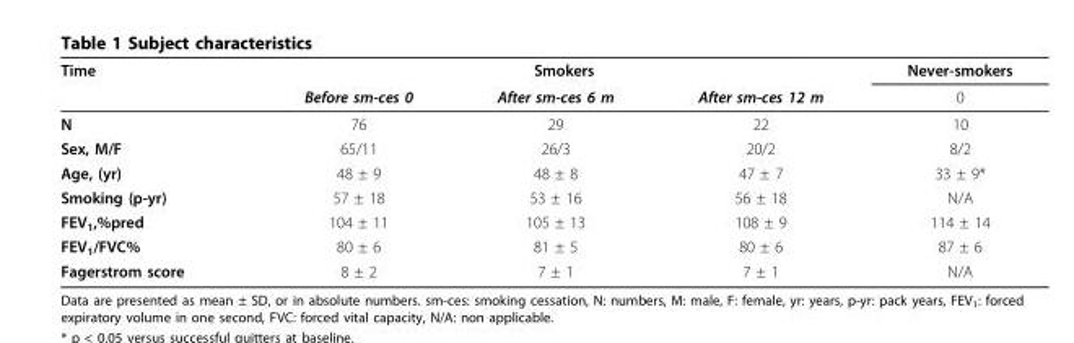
<table><thead><tr><td rowspan="2">Time</td><td colspan="3">Smokers</td><td rowspan="2">Never-smokers 0</td></tr><tr><td>Before sm-ces 0</td><td>After sm-ces 6 m</td><td>After sm-ces 12 m</td></tr></thead><tbody><tr><td>N</td><td>76</td><td>29</td><td>22</td><td>10</td></tr><tr><td>Sex, M/F</td><td>65/11</td><td>26/3</td><td>20/2</td><td>8/2</td></tr><tr><td>Age, (yr)</td><td>48 ± 9</td><td>48 ± 8</td><td>47 ± 7</td><td>33 ± 9*</td></tr><tr><td>Smoking (p-yr)</td><td>57 ± 18</td><td>53 ± 16</td><td>56 ± 18</td><td>N/A</td></tr><tr><td>FEV<sub>1</sub>,%pred</td><td>104 ± 11</td><td>105 ± 13</td><td>108 ± 9</td><td>114 ± 14</td></tr><tr><td>FEV<sub>1</sub>/FVC%</td><td>80 ± 6</td><td>81 ± 5</td><td>80 ± 6</td><td>87 ± 6</td></tr><tr><td>Fagerstrom score</td><td>8 ± 2</td><td>7 ± 1</td><td>7 ± 1</td><td>N/A</td></tr></tbody></table>